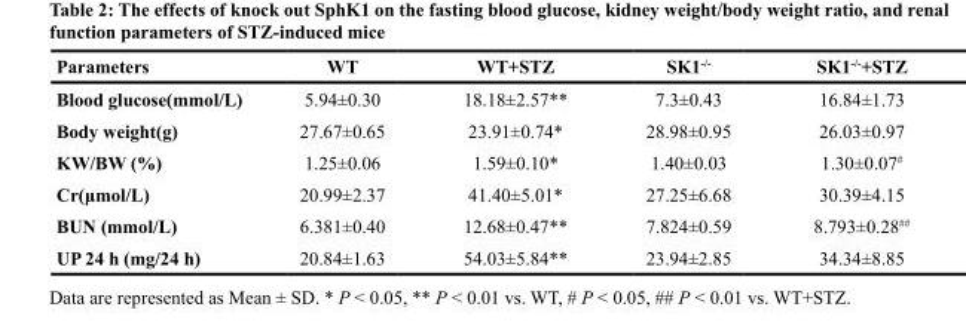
<table><thead><tr><td>Parameters</td><td>WT</td><td>WT+STZ</td><td>SK1<sup>-/-</sup></td><td>SK1<sup>-/-</sup>+STZ</td></tr></thead><tbody><tr><td>Blood glucose(mmol/L)</td><td>5.94±0.30</td><td>18.18±2.57**</td><td>7.3±0.43</td><td>16.84±1.73</td></tr><tr><td>Body weight(g)</td><td>27.67±0.65</td><td>23.91±0.74*</td><td>28.98±0.95</td><td>26.03±0.97</td></tr><tr><td>KW/BW (%)</td><td>1.25±0.06</td><td>1.59±0.10*</td><td>1.40±0.03</td><td>1.30±0.07<sup>#</sup></td></tr><tr><td>Cr(μmol/L)</td><td>20.99±2.37</td><td>41.40±5.01*</td><td>27.25±6.68</td><td>30.39±4.15</td></tr><tr><td>BUN (mmol/L)</td><td>6.381±0.40</td><td>12.68±0.47**</td><td>7.824±0.59</td><td>8.793±0.28<sup>##</sup></td></tr><tr><td>UP 24 h (mg/24 h)</td><td>20.84±1.63</td><td>54.03±5.84**</td><td>23.94±2.85</td><td>34.34±8.85</td></tr></tbody></table>